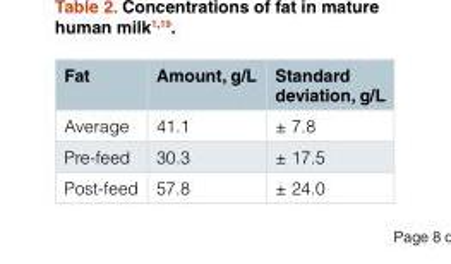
<table><thead><tr><td>Fat</td><td>Amount, g/L</td><td>Standard deviation, g/L</td></tr></thead><tbody><tr><td>Average</td><td>41.1</td><td>± 7.8</td></tr><tr><td>Pre-feed</td><td>30.3</td><td>± 17.5</td></tr><tr><td>Post-feed</td><td>57.8</td><td>± 24.0</td></tr></tbody></table>